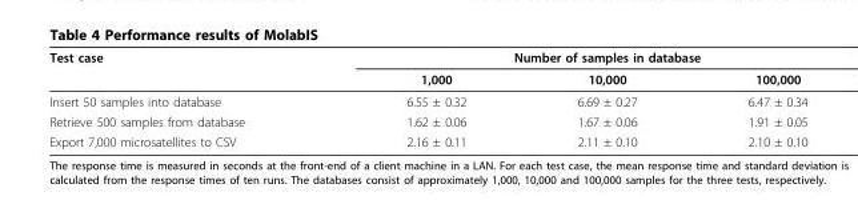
<table><thead><tr><td rowspan="2">Test case</td><td colspan="3">Number of samples in database</td></tr><tr><td>1,000</td><td>10,000</td><td>100,000</td></tr></thead><tbody><tr><td>Insert 50 samples into database</td><td>6.55 ± 0.32</td><td>6.69 ± 0.27</td><td>6.47 ± 0.34</td></tr><tr><td>Retrieve 500 samples from database</td><td>1.62 ± 0.06</td><td>1.67 ± 0.06</td><td>1.91 ± 0.05</td></tr><tr><td>Export 7,000 microsatellites to CSV</td><td>2.16 ± 0.11</td><td>2.11 ± 0.10</td><td>2.10 ± 0.10</td></tr></tbody></table>